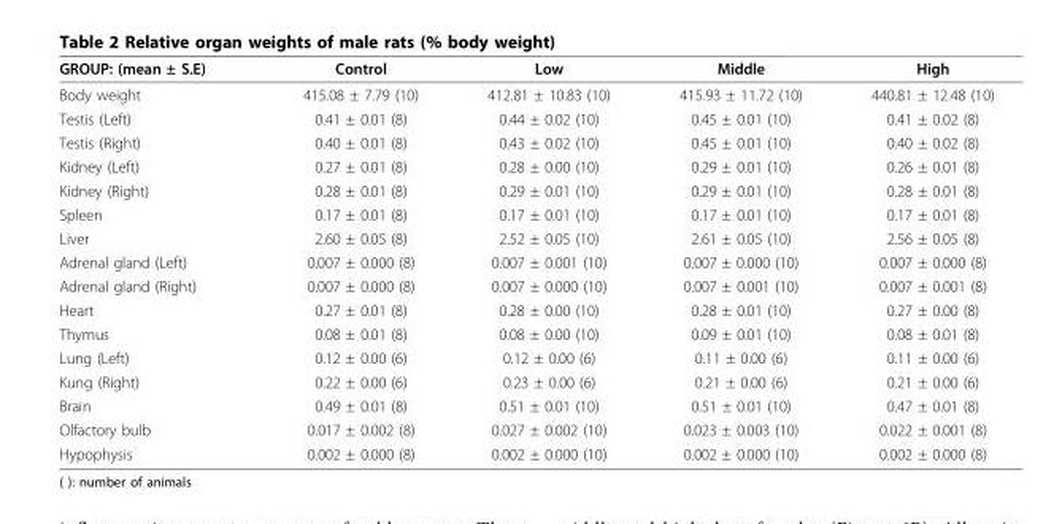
<table><thead><tr><td>GROUP: (mean ± S.E)</td><td>Control</td><td>Low</td><td>Middle</td><td>High</td></tr></thead><tbody><tr><td>Body weight</td><td>415.08 ± 7.79 (10)</td><td>412.81 ± 10.83 (10)</td><td>415.93 ± 11.72 (10)</td><td>440.81 ± 12.48 (10)</td></tr><tr><td>Testis (Left)</td><td>0.41 ± 0.01 (8)</td><td>0.44 ± 0.02 (10)</td><td>0.45 ± 0.01 (10)</td><td>0.41 ± 0.02 (8)</td></tr><tr><td>Testis (Right)</td><td>0.40 ± 0.01 (8)</td><td>0.43 ± 0.02 (10)</td><td>0.45 ± 0.01 (10)</td><td>0.40 ± 0.02 (8)</td></tr><tr><td>Kidney (Left)</td><td>0.27 ± 0.01 (8)</td><td>0.28 ± 0.00 (10)</td><td>0.29 ± 0.01 (10)</td><td>0.26 ± 0.01 (8)</td></tr><tr><td>Kidney (Right)</td><td>0.28 ± 0.01 (8)</td><td>0.29 ± 0.01 (10)</td><td>0.29 ± 0.01 (10)</td><td>0.28 ± 0.01 (8)</td></tr><tr><td>Spleen</td><td>0.17 ± 0.01 (8)</td><td>0.17 ± 0.01 (10)</td><td>0.17 ± 0.01 (10)</td><td>0.17 ± 0.01 (8)</td></tr><tr><td>Liver</td><td>2.60 ± 0.05 (8)</td><td>2.52 ± 0.05 (10)</td><td>2.61 ± 0.05 (10)</td><td>2.56 ± 0.05 (8)</td></tr><tr><td>Adrenal gland (Left)</td><td>0.007 ± 0.000 (8)</td><td>0.007 ± 0.001 (10)</td><td>0.007 ± 0.000 (10)</td><td>0.007 ± 0.000 (8)</td></tr><tr><td>Adrenal gland (Right)</td><td>0.007 ± 0.000 (8)</td><td>0.007 ± 0.000 (10)</td><td>0.007 ± 0.001 (10)</td><td>0.007 ± 0.001 (8)</td></tr><tr><td>Heart</td><td>0.27 ± 0.01 (8)</td><td>0.28 ± 0.00 (10)</td><td>0.28 ± 0.01 (10)</td><td>0.27 ± 0.00 (8)</td></tr><tr><td>Thymus</td><td>0.08 ± 0.01 (8)</td><td>0.08 ± 0.00 (10)</td><td>0.09 ± 0.01 (10)</td><td>0.08 ± 0.01 (8)</td></tr><tr><td>Lung (Left)</td><td>0.12 ± 0.00 (6)</td><td>0.12 ± 0.00 (6)</td><td>0.11 ± 0.00 (6)</td><td>0.11 ± 0.00 (6)</td></tr><tr><td>Kung (Right)</td><td>0.22 ± 0.00 (6)</td><td>0.23 ± 0.00 (6)</td><td>0.21 ± 0.00 (6)</td><td>0.21 ± 0.00 (6)</td></tr><tr><td>Brain</td><td>0.49 ± 0.01 (8)</td><td>0.51 ± 0.01 (10)</td><td>0.51 ± 0.01 (10)</td><td>0.47 ± 0.01 (8)</td></tr><tr><td>Olfactory bulb</td><td>0.017 ± 0.002 (8)</td><td>0.027 ± 0.002 (10)</td><td>0.023 ± 0.003 (10)</td><td>0.022 ± 0.001 (8)</td></tr><tr><td>Hypophysis</td><td>0.002 ± 0.000 (8)</td><td>0.002 ± 0.000 (10)</td><td>0.002 ± 0.000 (10)</td><td>0.002 ± 0.000 (8)</td></tr></tbody></table>